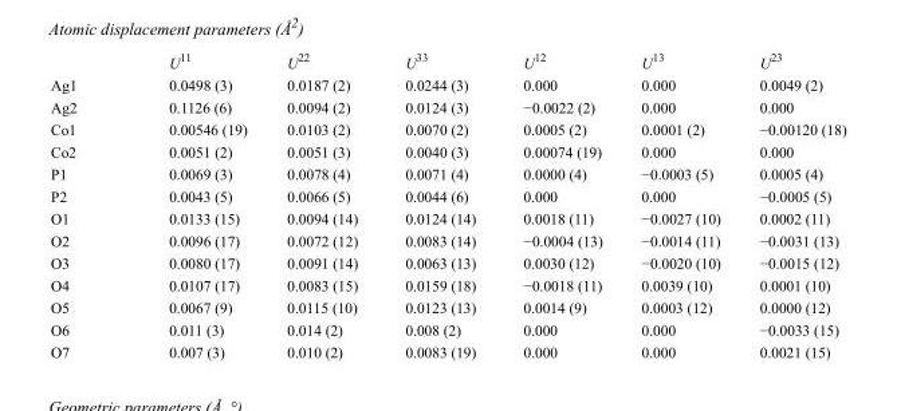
<table><thead><tr><td></td><td>U<sup>11</sup></td><td>U<sup>22</sup></td><td>U<sup>33</sup></td><td>U<sup>12</sup></td><td>U<sup>13</sup></td><td>U<sup>23</sup></td></tr></thead><tbody><tr><td>Ag1</td><td>0.0498 (3)</td><td>0.0187 (2)</td><td>0.0244 (3)</td><td>0.000</td><td>0.000</td><td>0.0049 (2)</td></tr><tr><td>Ag2</td><td>0.1126 (6)</td><td>0.0094 (2)</td><td>0.0124 (3)</td><td>−0.0022 (2)</td><td>0.000</td><td>0.000</td></tr><tr><td>Co1</td><td>0.00546 (19)</td><td>0.0103 (2)</td><td>0.0070 (2)</td><td>0.0005 (2)</td><td>0.0001 (2)</td><td>−0.00120 (18)</td></tr><tr><td>Co2</td><td>0.0051 (2)</td><td>0.0051 (3)</td><td>0.0040 (3)</td><td>0.00074 (19)</td><td>0.000</td><td>0.000</td></tr><tr><td>P1</td><td>0.0069 (3)</td><td>0.0078 (4)</td><td>0.0071 (4)</td><td>0.0000 (4)</td><td>−0.0003 (5)</td><td>0.0005 (4)</td></tr><tr><td>P2</td><td>0.0043 (5)</td><td>0.0066 (5)</td><td>0.0044 (6)</td><td>0.000</td><td>0.000</td><td>−0.0005 (5)</td></tr><tr><td>O1</td><td>0.0133 (15)</td><td>0.0094 (14)</td><td>0.0124 (14)</td><td>0.0018 (11)</td><td>−0.0027 (10)</td><td>0.0002 (11)</td></tr><tr><td>O2</td><td>0.0096 (17)</td><td>0.0072 (12)</td><td>0.0083 (14)</td><td>−0.0004 (13)</td><td>−0.0014 (11)</td><td>−0.0031 (13)</td></tr><tr><td>O3</td><td>0.0080 (17)</td><td>0.0091 (14)</td><td>0.0063 (13)</td><td>0.0030 (12)</td><td>−0.0020 (10)</td><td>−0.0015 (12)</td></tr><tr><td>O4</td><td>0.0107 (17)</td><td>0.0083 (15)</td><td>0.0159 (18)</td><td>−0.0018 (11)</td><td>0.0039 (10)</td><td>0.0001 (10)</td></tr><tr><td>O5</td><td>0.0067 (9)</td><td>0.0115 (10)</td><td>0.0123 (13)</td><td>0.0014 (9)</td><td>0.0003 (12)</td><td>0.0000 (12)</td></tr><tr><td>O6</td><td>0.011 (3)</td><td>0.014 (2)</td><td>0.008 (2)</td><td>0.000</td><td>0.000</td><td>−0.0033 (15)</td></tr><tr><td>O7</td><td>0.007 (3)</td><td>0.010 (2)</td><td>0.0083 (19)</td><td>0.000</td><td>0.000</td><td>0.0021 (15)</td></tr></tbody></table>